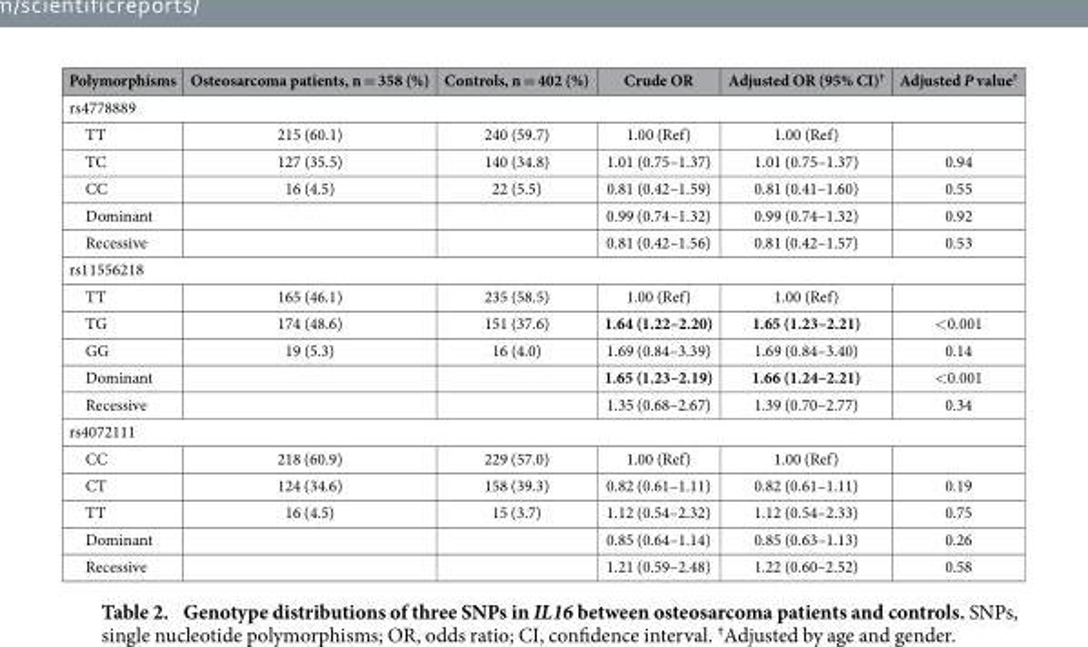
<table><thead><tr><td>Polymorphisms</td><td>Osteosarcoma patients, n = 358 (%)</td><td>Controls, n = 402 (%)</td><td>Crude OR</td><td>Adjusted OR (95% CI)†</td><td>Adjusted P value†</td></tr></thead><tbody><tr><td colspan="6">rs4778889</td></tr><tr><td>TT</td><td>215 (60.1)</td><td>240 (59.7)</td><td>1.00 (Ref)</td><td>1.00 (Ref)</td><td></td></tr><tr><td>TC</td><td>127 (35.5)</td><td>140 (34.8)</td><td>1.01 (0.75–1.37)</td><td>1.01 (0.75–1.37)</td><td>0.94</td></tr><tr><td>CC</td><td>16 (4.5)</td><td>22 (5.5)</td><td>0.81 (0.42–1.59)</td><td>0.81 (0.41–1.60)</td><td>0.55</td></tr><tr><td>Dominant</td><td></td><td></td><td>0.99 (0.74–1.32)</td><td>0.99 (0.74–1.32)</td><td>0.92</td></tr><tr><td>Recessive</td><td></td><td></td><td>0.81 (0.42–1.56)</td><td>0.81 (0.42–1.57)</td><td>0.53</td></tr><tr><td colspan="6">rs11556218</td></tr><tr><td>TT</td><td>165 (46.1)</td><td>235 (58.5)</td><td>1.00 (Ref)</td><td>1.00 (Ref)</td><td></td></tr><tr><td>TG</td><td>174 (48.6)</td><td>151 (37.6)</td><td>1.64 (1.22–2.20)</td><td>1.65 (1.23–2.21)</td><td>&lt;0.001</td></tr><tr><td>GG</td><td>19 (5.3)</td><td>16 (4.0)</td><td>1.69 (0.84–3.39)</td><td>1.69 (0.84–3.40)</td><td>0.14</td></tr><tr><td>Dominant</td><td></td><td></td><td>1.65 (1.23–2.19)</td><td>1.66 (1.24–2.21)</td><td>&lt;0.001</td></tr><tr><td>Recessive</td><td></td><td></td><td>1.35 (0.68–2.67)</td><td>1.39 (0.70–2.77)</td><td>0.34</td></tr><tr><td colspan="6">rs4072111</td></tr><tr><td>CC</td><td>218 (60.9)</td><td>229 (57.0)</td><td>1.00 (Ref)</td><td>1.00 (Ref)</td><td></td></tr><tr><td>CT</td><td>124 (34.6)</td><td>158 (39.3)</td><td>0.82 (0.61–1.11)</td><td>0.82 (0.61–1.11)</td><td>0.19</td></tr><tr><td>TT</td><td>16 (4.5)</td><td>15 (3.7)</td><td>1.12 (0.54–2.32)</td><td>1.12 (0.54–2.33)</td><td>0.75</td></tr><tr><td>Dominant</td><td></td><td></td><td>0.85 (0.64–1.14)</td><td>0.85 (0.63–1.13)</td><td>0.26</td></tr><tr><td>Recessive</td><td></td><td></td><td>1.21 (0.59–2.48)</td><td>1.22 (0.60–2.52)</td><td>0.58</td></tr></tbody></table>